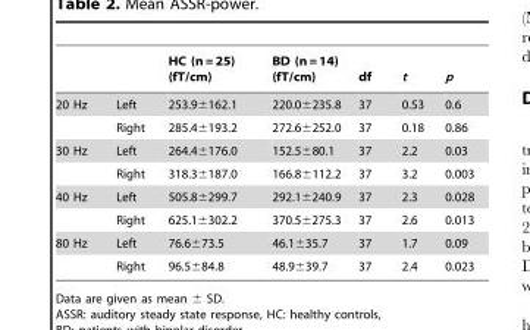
<table><thead><tr><td></td><td></td><td>HC (n = 25) (fT/cm)</td><td>BD (n = 14) (fT/cm)</td><td>df</td><td>t</td><td>p</td></tr></thead><tbody><tr><td rowspan="2">20 Hz</td><td>Left</td><td>253.9±162.1</td><td>220.0±235.8</td><td>37</td><td>0.53</td><td>0.6</td></tr><tr><td>Right</td><td>285.4±193.2</td><td>272.6±252.0</td><td>37</td><td>0.18</td><td>0.86</td></tr><tr><td rowspan="2">30 Hz</td><td>Left</td><td>264.4±176.0</td><td>152.5±80.1</td><td>37</td><td>2.2</td><td>0.03</td></tr><tr><td>Right</td><td>318.3±187.0</td><td>166.8±112.2</td><td>37</td><td>3.2</td><td>0.003</td></tr><tr><td rowspan="2">40 Hz</td><td>Left</td><td>505.8±299.7</td><td>292.1±240.9</td><td>37</td><td>2.3</td><td>0.028</td></tr><tr><td>Right</td><td>625.1±302.2</td><td>370.5±275.3</td><td>37</td><td>2.6</td><td>0.013</td></tr><tr><td rowspan="2">80 Hz</td><td>Left</td><td>76.6±73.5</td><td>46.1±35.7</td><td>37</td><td>1.7</td><td>0.09</td></tr><tr><td>Right</td><td>96.5±84.8</td><td>48.9±39.7</td><td>37</td><td>2.4</td><td>0.023</td></tr></tbody></table>